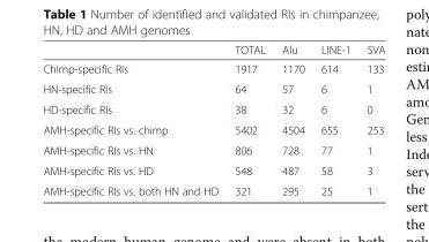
<table><thead><tr><td></td><td>TOTAL</td><td>Alu</td><td>LINE-1</td><td>SVA</td></tr></thead><tbody><tr><td>Chimp-specific RIs</td><td>1917</td><td>1170</td><td>614</td><td>133</td></tr><tr><td>HN-specific RIs</td><td>64</td><td>57</td><td>6</td><td>1</td></tr><tr><td>HD-specific RIs</td><td>38</td><td>32</td><td>6</td><td>0</td></tr><tr><td>AMH-specific RIs vs. chimp</td><td>5402</td><td>4504</td><td>655</td><td>253</td></tr><tr><td>AMH-specific RIs vs. HN</td><td>806</td><td>728</td><td>77</td><td>1</td></tr><tr><td>AMH-specific RIs vs. HD</td><td>548</td><td>487</td><td>58</td><td>3</td></tr><tr><td>AMH-specific RIs vs. both HN and HD</td><td>321</td><td>295</td><td>25</td><td>1</td></tr></tbody></table>